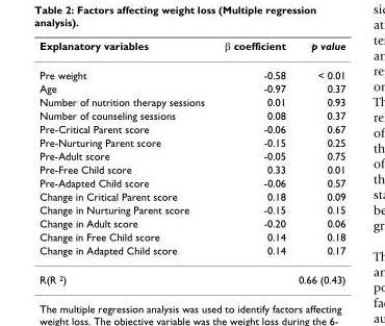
<table><thead><tr><td>Explanatory variables</td><td>β coefficient</td><td>p value</td></tr></thead><tbody><tr><td>Pre weight</td><td>-0.58</td><td>&lt; 0.01</td></tr><tr><td>Age</td><td>-0.97</td><td>0.37</td></tr><tr><td>Number of nutrition therapy sessions</td><td>0.01</td><td>0.93</td></tr><tr><td>Number of counseling sessions</td><td>0.08</td><td>0.37</td></tr><tr><td>Pre-Critical Parent score</td><td>-0.06</td><td>0.67</td></tr><tr><td>Pre-Nurturing Parent score</td><td>-0.15</td><td>0.25</td></tr><tr><td>Pre-Adult score</td><td>-0.05</td><td>0.75</td></tr><tr><td>Pre-Free Child score</td><td>0.33</td><td>0.01</td></tr><tr><td>Pre-Adapted Child score</td><td>-0.06</td><td>0.57</td></tr><tr><td>Change in Critical Parent score</td><td>0.18</td><td>0.09</td></tr><tr><td>Change in Nurturing Parent score</td><td>-0.15</td><td>0.15</td></tr><tr><td>Change in Adult score</td><td>-0.20</td><td>0.06</td></tr><tr><td>Change in Free Child score</td><td>0.14</td><td>0.18</td></tr><tr><td>Change in Adapted Child score</td><td>0.14</td><td>0.17</td></tr><tr><td>R(R <sup>2</sup>)</td><td></td><td>0.66 (0.43)</td></tr></tbody></table>